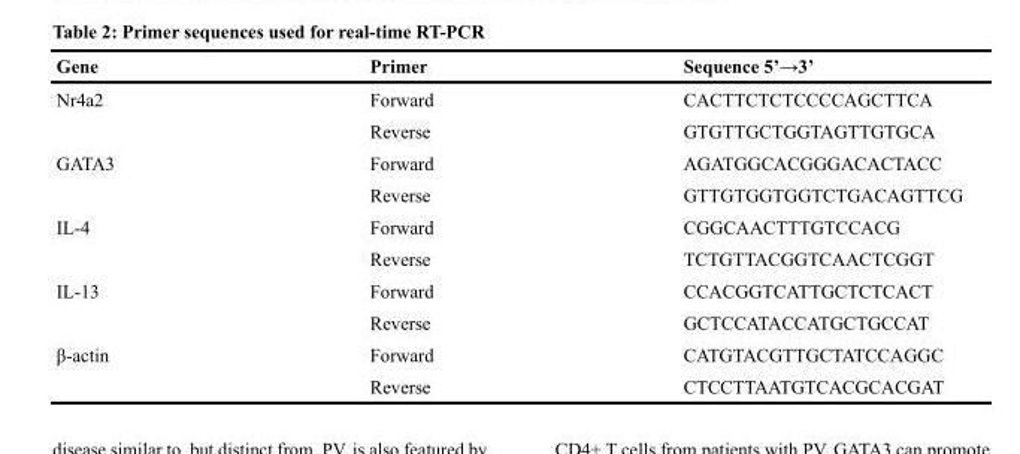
<table><thead><tr><td>Gene</td><td>Primer</td><td>Sequence 5’→3’</td></tr></thead><tbody><tr><td rowspan="2">Nr4a2</td><td>Forward</td><td>CACTTCTCTCCCCAGCTTCA</td></tr><tr><td>Reverse</td><td>GTGTTGCTGGTAGTTGTGCA</td></tr><tr><td rowspan="2">GATA3</td><td>Forward</td><td>AGATGGCACGGGACACTACC</td></tr><tr><td>Reverse</td><td>GTTGTGGTGGTCTGACAGTTCG</td></tr><tr><td rowspan="2">IL-4</td><td>Forward</td><td>CGGCAACTTTGTCCACG</td></tr><tr><td>Reverse</td><td>TCTGTTACGGTCAACTCGGT</td></tr><tr><td rowspan="2">IL-13</td><td>Forward</td><td>CCACGGTCATTGCTCTCACT</td></tr><tr><td>Reverse</td><td>GCTCCATACCATGCTGCCAT</td></tr><tr><td rowspan="2">β-actin</td><td>Forward</td><td>CATGTACGTTGCTATCCAGGC</td></tr><tr><td>Reverse</td><td>CTCCTTAATGTCACGCACGAT</td></tr></tbody></table>